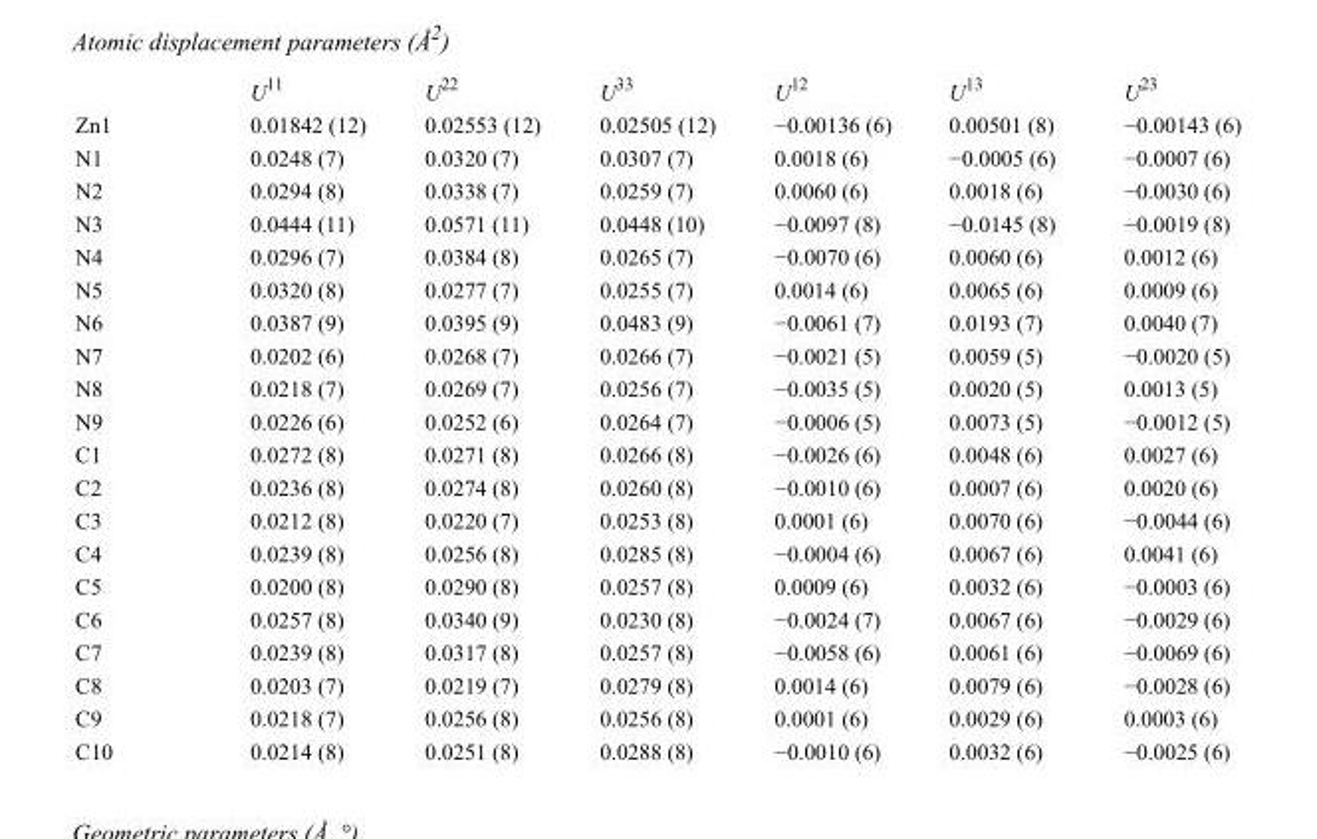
<table><thead><tr><td></td><td>U<sup>11</sup></td><td>U<sup>22</sup></td><td>U<sup>33</sup></td><td>U<sup>12</sup></td><td>U<sup>13</sup></td><td>U<sup>23</sup></td></tr></thead><tbody><tr><td>Zn1</td><td>0.01842 (12)</td><td>0.02553 (12)</td><td>0.02505 (12)</td><td>−0.00136 (6)</td><td>0.00501 (8)</td><td>−0.00143 (6)</td></tr><tr><td>N1</td><td>0.0248 (7)</td><td>0.0320 (7)</td><td>0.0307 (7)</td><td>0.0018 (6)</td><td>−0.0005 (6)</td><td>−0.0007 (6)</td></tr><tr><td>N2</td><td>0.0294 (8)</td><td>0.0338 (7)</td><td>0.0259 (7)</td><td>0.0060 (6)</td><td>0.0018 (6)</td><td>−0.0030 (6)</td></tr><tr><td>N3</td><td>0.0444 (11)</td><td>0.0571 (11)</td><td>0.0448 (10)</td><td>−0.0097 (8)</td><td>−0.0145 (8)</td><td>−0.0019 (8)</td></tr><tr><td>N4</td><td>0.0296 (7)</td><td>0.0384 (8)</td><td>0.0265 (7)</td><td>−0.0070 (6)</td><td>0.0060 (6)</td><td>0.0012 (6)</td></tr><tr><td>N5</td><td>0.0320 (8)</td><td>0.0277 (7)</td><td>0.0255 (7)</td><td>0.0014 (6)</td><td>0.0065 (6)</td><td>0.0009 (6)</td></tr><tr><td>N6</td><td>0.0387 (9)</td><td>0.0395 (9)</td><td>0.0483 (9)</td><td>−0.0061 (7)</td><td>0.0193 (7)</td><td>0.0040 (7)</td></tr><tr><td>N7</td><td>0.0202 (6)</td><td>0.0268 (7)</td><td>0.0266 (7)</td><td>−0.0021 (5)</td><td>0.0059 (5)</td><td>−0.0020 (5)</td></tr><tr><td>N8</td><td>0.0218 (7)</td><td>0.0269 (7)</td><td>0.0256 (7)</td><td>−0.0035 (5)</td><td>0.0020 (5)</td><td>0.0013 (5)</td></tr><tr><td>N9</td><td>0.0226 (6)</td><td>0.0252 (6)</td><td>0.0264 (7)</td><td>−0.0006 (5)</td><td>0.0073 (5)</td><td>−0.0012 (5)</td></tr><tr><td>C1</td><td>0.0272 (8)</td><td>0.0271 (8)</td><td>0.0266 (8)</td><td>−0.0026 (6)</td><td>0.0048 (6)</td><td>0.0027 (6)</td></tr><tr><td>C2</td><td>0.0236 (8)</td><td>0.0274 (8)</td><td>0.0260 (8)</td><td>−0.0010 (6)</td><td>0.0007 (6)</td><td>0.0020 (6)</td></tr><tr><td>C3</td><td>0.0212 (8)</td><td>0.0220 (7)</td><td>0.0253 (8)</td><td>0.0001 (6)</td><td>0.0070 (6)</td><td>−0.0044 (6)</td></tr><tr><td>C4</td><td>0.0239 (8)</td><td>0.0256 (8)</td><td>0.0285 (8)</td><td>−0.0004 (6)</td><td>0.0067 (6)</td><td>0.0041 (6)</td></tr><tr><td>C5</td><td>0.0200 (8)</td><td>0.0290 (8)</td><td>0.0257 (8)</td><td>0.0009 (6)</td><td>0.0032 (6)</td><td>−0.0003 (6)</td></tr><tr><td>C6</td><td>0.0257 (8)</td><td>0.0340 (9)</td><td>0.0230 (8)</td><td>−0.0024 (7)</td><td>0.0067 (6)</td><td>−0.0029 (6)</td></tr><tr><td>C7</td><td>0.0239 (8)</td><td>0.0317 (8)</td><td>0.0257 (8)</td><td>−0.0058 (6)</td><td>0.0061 (6)</td><td>−0.0069 (6)</td></tr><tr><td>C8</td><td>0.0203 (7)</td><td>0.0219 (7)</td><td>0.0279 (8)</td><td>0.0014 (6)</td><td>0.0079 (6)</td><td>−0.0028 (6)</td></tr><tr><td>C9</td><td>0.0218 (7)</td><td>0.0256 (8)</td><td>0.0256 (8)</td><td>0.0001 (6)</td><td>0.0029 (6)</td><td>0.0003 (6)</td></tr><tr><td>C10</td><td>0.0214 (8)</td><td>0.0251 (8)</td><td>0.0288 (8)</td><td>−0.0010 (6)</td><td>0.0032 (6)</td><td>−0.0025 (6)</td></tr></tbody></table>